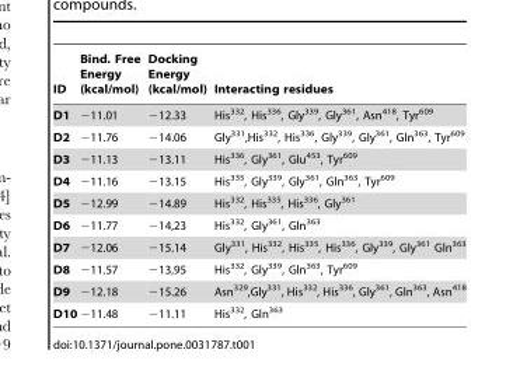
<table><thead><tr><td>ID</td><td>Bind. Free Energy (kcal/mol)</td><td>Docking Energy (kcal/mol)</td><td>Interacting residues</td></tr></thead><tbody><tr><td>D1</td><td>−11.01</td><td>−12.33</td><td>His<sup>332</sup>, His<sup>336</sup>, Gly<sup>339</sup>, Gly<sup>361</sup>, Asn<sup>418</sup>, Tyr<sup>609</sup></td></tr><tr><td>D2</td><td>−11.76</td><td>−14.06</td><td>Gly<sup>331</sup>,His<sup>332</sup>, His<sup>336</sup>, Gly<sup>339</sup>, Gly<sup>361</sup>, Gln<sup>363</sup>, Tyr<sup>609</sup></td></tr><tr><td>D3</td><td>−11.13</td><td>−13.11</td><td>His<sup>336</sup>, Gly<sup>361</sup>, Glu<sup>453</sup>, Tyr<sup>609</sup></td></tr><tr><td>D4</td><td>−11.16</td><td>−13.15</td><td>His<sup>335</sup>, Gly<sup>339</sup>, Gly<sup>361</sup>, Gln<sup>363</sup>, Tyr<sup>609</sup></td></tr><tr><td>D5</td><td>−12.99</td><td>−14.89</td><td>His<sup>332</sup>, His<sup>335</sup>, His<sup>336</sup>, Gly<sup>361</sup></td></tr><tr><td>D6</td><td>−11.77</td><td>−14,23</td><td>His<sup>332</sup>, Gly<sup>361</sup>, Gln<sup>363</sup></td></tr><tr><td>D7</td><td>−12.06</td><td>−15.14</td><td>Gly<sup>331</sup>, His<sup>332</sup>, His<sup>335</sup>, His<sup>336</sup>, Gly<sup>339</sup>, Gly<sup>361</sup> Gln<sup>363</sup></td></tr><tr><td>D8</td><td>−11.57</td><td>−13,95</td><td>His<sup>332</sup>, Gly<sup>339</sup>, Gln<sup>363</sup>, Tyr<sup>609</sup></td></tr><tr><td>D9</td><td>−12.18</td><td>−15.26</td><td>Asn<sup>329</sup>,Gly<sup>331</sup>, His<sup>332</sup>, His<sup>336</sup>, Gly<sup>361</sup>, Gln<sup>363</sup>, Asn<sup>418</sup></td></tr><tr><td>D10</td><td>−11.48</td><td>−11.11</td><td>His<sup>332</sup>, Gln<sup>363</sup></td></tr></tbody></table>